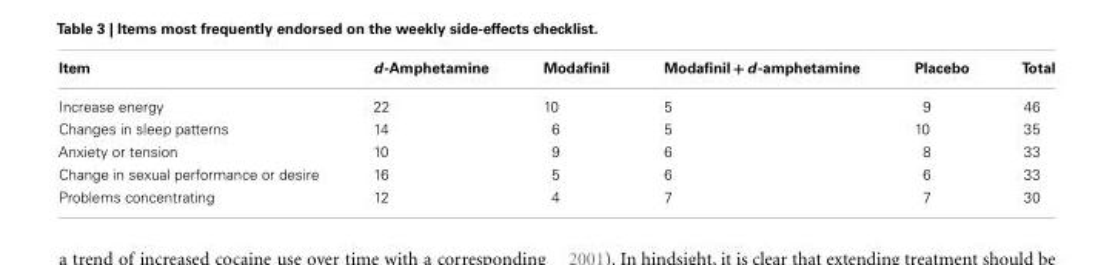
<table><thead><tr><td>Item</td><td>d-Amphetamine</td><td>Modafinil</td><td>Modafinil + d-amphetamine</td><td>Placebo</td><td>Total</td></tr></thead><tbody><tr><td>Increase energy</td><td>22</td><td>10</td><td>5</td><td>9</td><td>46</td></tr><tr><td>Changes in sleep patterns</td><td>14</td><td>6</td><td>5</td><td>10</td><td>35</td></tr><tr><td>Anxiety or tension</td><td>10</td><td>9</td><td>6</td><td>8</td><td>33</td></tr><tr><td>Change in sexual performance or desire</td><td>16</td><td>5</td><td>6</td><td>6</td><td>33</td></tr><tr><td>Problems concentrating</td><td>12</td><td>4</td><td>7</td><td>7</td><td>30</td></tr></tbody></table>